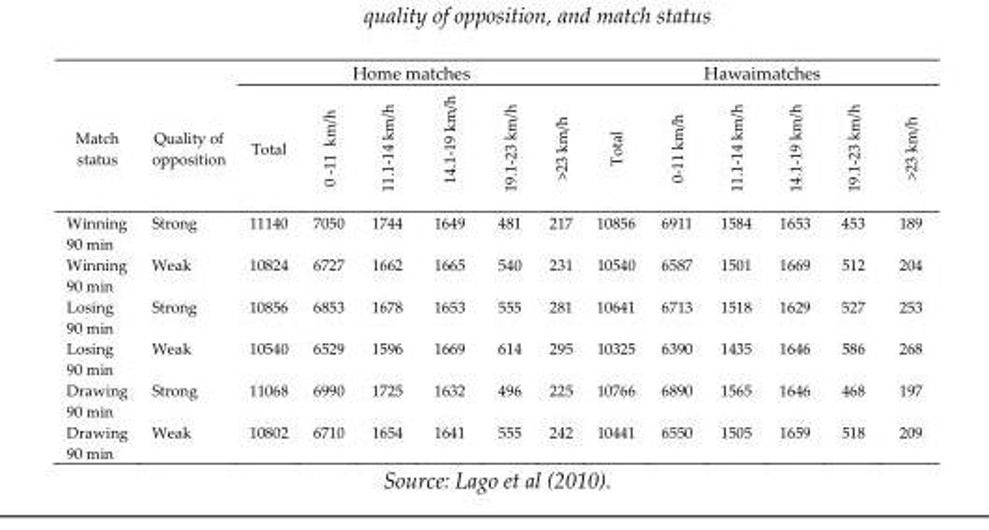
<table><thead><tr><td rowspan="2">Match status</td><td rowspan="2">Quality of opposition</td><td colspan="6">Home matches</td><td colspan="6">Hawaimatches</td></tr><tr><td>Total</td><td>0 -11 km/h</td><td>11.1-14 km/h</td><td>14.1-19 km/h</td><td>19.1-23 km/h</td><td>&gt;23 km/h</td><td>Total</td><td>0-11 km/h</td><td>11.1-14 km/h</td><td>14.1-19 km/h</td><td>19.1-23 km/h</td><td>&gt;23 km/h</td></tr></thead><tbody><tr><td>Winning 90 min</td><td>Strong</td><td>11140</td><td>7050</td><td>1744</td><td>1649</td><td>481</td><td>217</td><td>10856</td><td>6911</td><td>1584</td><td>1653</td><td>453</td><td>189</td></tr><tr><td>Winning 90 min</td><td>Weak</td><td>10824</td><td>6727</td><td>1662</td><td>1665</td><td>540</td><td>231</td><td>10540</td><td>6587</td><td>1501</td><td>1669</td><td>512</td><td>204</td></tr><tr><td>Losing 90 min</td><td>Strong</td><td>10856</td><td>6853</td><td>1678</td><td>1653</td><td>555</td><td>281</td><td>10641</td><td>6713</td><td>1518</td><td>1629</td><td>527</td><td>253</td></tr><tr><td>Losing 90 min</td><td>Weak</td><td>10540</td><td>6529</td><td>1596</td><td>1669</td><td>614</td><td>295</td><td>10325</td><td>6390</td><td>1435</td><td>1646</td><td>586</td><td>268</td></tr><tr><td>Drawing 90 min</td><td>Strong</td><td>11068</td><td>6990</td><td>1725</td><td>1632</td><td>496</td><td>225</td><td>10766</td><td>6890</td><td>1565</td><td>1646</td><td>468</td><td>197</td></tr><tr><td>Drawing 90 min</td><td>Weak</td><td>10802</td><td>6710</td><td>1654</td><td>1641</td><td>555</td><td>242</td><td>10441</td><td>6550</td><td>1505</td><td>1659</td><td>518</td><td>209</td></tr></tbody></table>